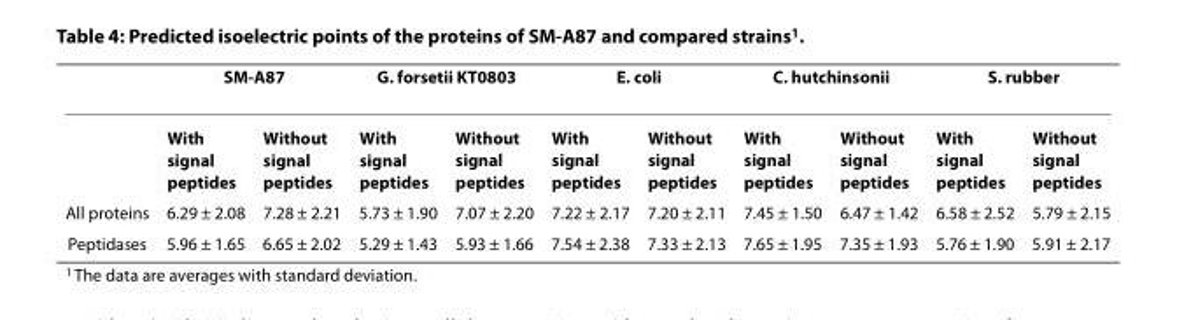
<table><thead><tr><td rowspan="2"></td><td colspan="2">SM-A87</td><td colspan="2">G. forsetii KT0803</td><td colspan="2">E. coli</td><td colspan="2">C. hutchinsonii</td><td colspan="2">S. rubber</td></tr><tr><td>With signal peptides</td><td>Without signal peptides</td><td>With signal peptides</td><td>Without signal peptides</td><td>With signal peptides</td><td>Without signal peptides</td><td>With signal peptides</td><td>Without signal peptides</td><td>With signal peptides</td><td>Without signal peptides</td></tr></thead><tbody><tr><td>All proteins</td><td>6.29 ± 2.08</td><td>7.28 ± 2.21</td><td>5.73 ± 1.90</td><td>7.07 ± 2.20</td><td>7.22 ± 2.17</td><td>7.20 ± 2.11</td><td>7.45 ± 1.50</td><td>6.47 ± 1.42</td><td>6.58 ± 2.52</td><td>5.79 ± 2.15</td></tr><tr><td>Peptidases</td><td>5.96 ± 1.65</td><td>6.65 ± 2.02</td><td>5.29 ± 1.43</td><td>5.93 ± 1.66</td><td>7.54 ± 2.38</td><td>7.33 ± 2.13</td><td>7.65 ± 1.95</td><td>7.35 ± 1.93</td><td>5.76 ± 1.90</td><td>5.91 ± 2.17</td></tr></tbody></table>